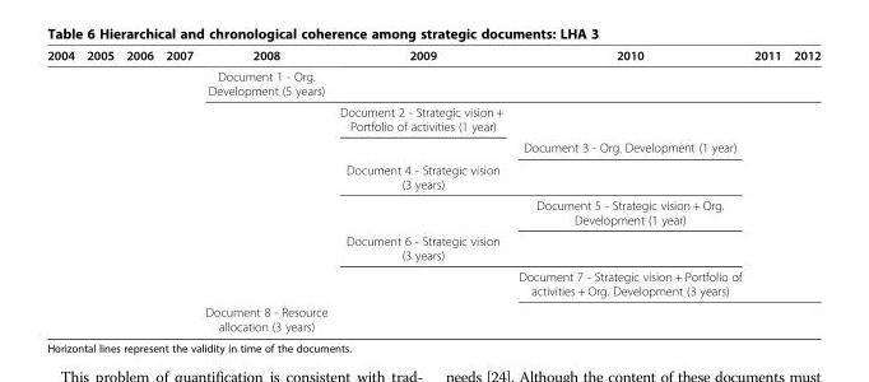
<table><thead><tr><td>2004</td><td>2005</td><td>2006</td><td>2007</td><td>2008</td><td>2009</td><td>2010</td><td>2011</td><td>2012</td></tr></thead><tbody><tr><td></td><td></td><td></td><td></td><td>Document 1 - Org. Development (5 years)</td><td></td><td></td><td></td><td></td></tr><tr><td></td><td></td><td></td><td></td><td></td><td>Document 2 - Strategic vision + Portfolio of activities (1 year)</td><td></td><td></td><td></td></tr><tr><td></td><td></td><td></td><td></td><td></td><td></td><td>Document 3 - Org. Development (1 year)</td><td></td><td></td></tr><tr><td></td><td></td><td></td><td></td><td></td><td>Document 4 - Strategic vision (3 years)</td><td></td><td></td><td></td></tr><tr><td></td><td></td><td></td><td></td><td></td><td></td><td>Document 5 - Strategic vision + Org. Development (1 year)</td><td></td><td></td></tr><tr><td></td><td></td><td></td><td></td><td></td><td>Document 6 - Strategic vision (3 years)</td><td></td><td></td><td></td></tr><tr><td></td><td></td><td></td><td></td><td></td><td></td><td>Document 7 - Strategic vision + Portfolio of activities + Org. Development (3 years)</td><td></td><td></td></tr><tr><td></td><td></td><td></td><td></td><td>Document 8 - Resource allocation (3 years)</td><td></td><td></td><td></td><td></td></tr></tbody></table>